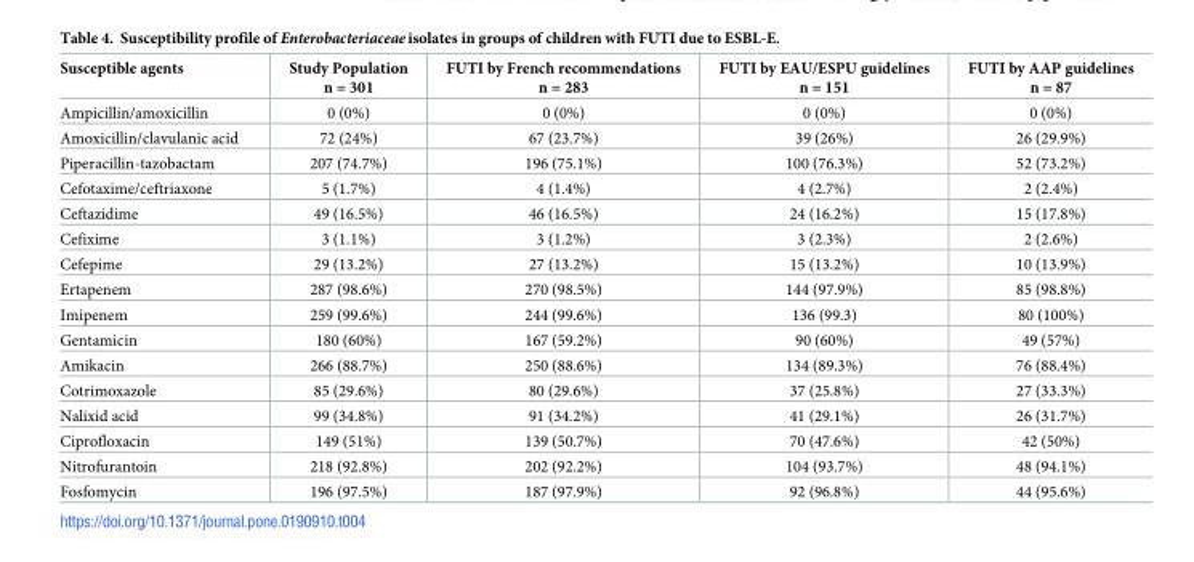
<table><thead><tr><td>Susceptible agents</td><td>Study Population n = 301</td><td>FUTI by French recommendations n = 283</td><td>FUTI by EAU/ESPU guidelines n = 151</td><td>FUTI by AAP guidelines n = 87</td></tr></thead><tbody><tr><td>Ampicillin/amoxicillin</td><td>0 (0%)</td><td>0 (0%)</td><td>0 (0%)</td><td>0 (0%)</td></tr><tr><td>Amoxicillin/clavulanic acid</td><td>72 (24%)</td><td>67 (23.7%)</td><td>39 (26%)</td><td>26 (29.9%)</td></tr><tr><td>Piperacillin-tazobactam</td><td>207 (74.7%)</td><td>196 (75.1%)</td><td>100 (76.3%)</td><td>52 (73.2%)</td></tr><tr><td>Cefotaxime/ceftriaxone</td><td>5 (1.7%)</td><td>4 (1.4%)</td><td>4 (2.7%)</td><td>2 (2.4%)</td></tr><tr><td>Ceftazidime</td><td>49 (16.5%)</td><td>46 (16.5%)</td><td>24 (16.2%)</td><td>15 (17.8%)</td></tr><tr><td>Cefixime</td><td>3 (1.1%)</td><td>3 (1.2%)</td><td>3 (2.3%)</td><td>2 (2.6%)</td></tr><tr><td>Cefepime</td><td>29 (13.2%)</td><td>27 (13.2%)</td><td>15 (13.2%)</td><td>10 (13.9%)</td></tr><tr><td>Ertapenem</td><td>287 (98.6%)</td><td>270 (98.5%)</td><td>144 (97.9%)</td><td>85 (98.8%)</td></tr><tr><td>Imipenem</td><td>259 (99.6%)</td><td>244 (99.6%)</td><td>136 (99.3)</td><td>80 (100%)</td></tr><tr><td>Gentamicin</td><td>180 (60%)</td><td>167 (59.2%)</td><td>90 (60%)</td><td>49 (57%)</td></tr><tr><td>Amikacin</td><td>266 (88.7%)</td><td>250 (88.6%)</td><td>134 (89.3%)</td><td>76 (88.4%)</td></tr><tr><td>Cotrimoxazole</td><td>85 (29.6%)</td><td>80 (29.6%)</td><td>37 (25.8%)</td><td>27 (33.3%)</td></tr><tr><td>Nalixid acid</td><td>99 (34.8%)</td><td>91 (34.2%)</td><td>41 (29.1%)</td><td>26 (31.7%)</td></tr><tr><td>Ciprofloxacin</td><td>149 (51%)</td><td>139 (50.7%)</td><td>70 (47.6%)</td><td>42 (50%)</td></tr><tr><td>Nitrofurantoin</td><td>218 (92.8%)</td><td>202 (92.2%)</td><td>104 (93.7%)</td><td>48 (94.1%)</td></tr><tr><td>Fosfomycin</td><td>196 (97.5%)</td><td>187 (97.9%)</td><td>92 (96.8%)</td><td>44 (95.6%)</td></tr></tbody></table>